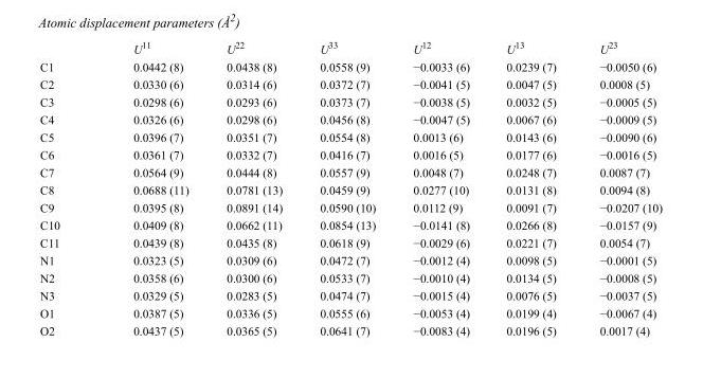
<table><thead><tr><td></td><td>U<sup>11</sup></td><td>U<sup>22</sup></td><td>U<sup>33</sup></td><td>U<sup>12</sup></td><td>U<sup>13</sup></td><td>U<sup>23</sup></td></tr></thead><tbody><tr><td>C1</td><td>0.0442 (8)</td><td>0.0438 (8)</td><td>0.0558 (9)</td><td>−0.0033 (6)</td><td>0.0239 (7)</td><td>−0.0050 (6)</td></tr><tr><td>C2</td><td>0.0330 (6)</td><td>0.0314 (6)</td><td>0.0372 (7)</td><td>−0.0041 (5)</td><td>0.0047 (5)</td><td>0.0008 (5)</td></tr><tr><td>C3</td><td>0.0298 (6)</td><td>0.0293 (6)</td><td>0.0373 (7)</td><td>−0.0038 (5)</td><td>0.0032 (5)</td><td>−0.0005 (5)</td></tr><tr><td>C4</td><td>0.0326 (6)</td><td>0.0298 (6)</td><td>0.0456 (8)</td><td>−0.0047 (5)</td><td>0.0067 (6)</td><td>−0.0009 (5)</td></tr><tr><td>C5</td><td>0.0396 (7)</td><td>0.0351 (7)</td><td>0.0554 (8)</td><td>0.0013 (6)</td><td>0.0143 (6)</td><td>−0.0090 (6)</td></tr><tr><td>C6</td><td>0.0361 (7)</td><td>0.0332 (7)</td><td>0.0416 (7)</td><td>0.0016 (5)</td><td>0.0177 (6)</td><td>−0.0016 (5)</td></tr><tr><td>C7</td><td>0.0564 (9)</td><td>0.0444 (8)</td><td>0.0557 (9)</td><td>0.0048 (7)</td><td>0.0248 (7)</td><td>0.0087 (7)</td></tr><tr><td>C8</td><td>0.0688 (11)</td><td>0.0781 (13)</td><td>0.0459 (9)</td><td>0.0277 (10)</td><td>0.0131 (8)</td><td>0.0094 (8)</td></tr><tr><td>C9</td><td>0.0395 (8)</td><td>0.0891 (14)</td><td>0.0590 (10)</td><td>0.0112 (9)</td><td>0.0091 (7)</td><td>−0.0207 (10)</td></tr><tr><td>C10</td><td>0.0409 (8)</td><td>0.0662 (11)</td><td>0.0854 (13)</td><td>−0.0141 (8)</td><td>0.0266 (8)</td><td>−0.0157 (9)</td></tr><tr><td>C11</td><td>0.0439 (8)</td><td>0.0435 (8)</td><td>0.0618 (9)</td><td>−0.0029 (6)</td><td>0.0221 (7)</td><td>0.0054 (7)</td></tr><tr><td>N1</td><td>0.0323 (5)</td><td>0.0309 (6)</td><td>0.0472 (7)</td><td>−0.0012 (4)</td><td>0.0098 (5)</td><td>−0.0001 (5)</td></tr><tr><td>N2</td><td>0.0358 (6)</td><td>0.0300 (6)</td><td>0.0533 (7)</td><td>−0.0010 (4)</td><td>0.0134 (5)</td><td>−0.0008 (5)</td></tr><tr><td>N3</td><td>0.0329 (5)</td><td>0.0283 (5)</td><td>0.0474 (7)</td><td>−0.0015 (4)</td><td>0.0076 (5)</td><td>−0.0037 (5)</td></tr><tr><td>O1</td><td>0.0387 (5)</td><td>0.0336 (5)</td><td>0.0555 (6)</td><td>−0.0053 (4)</td><td>0.0199 (4)</td><td>−0.0067 (4)</td></tr><tr><td>O2</td><td>0.0437 (5)</td><td>0.0365 (5)</td><td>0.0641 (7)</td><td>−0.0083 (4)</td><td>0.0196 (5)</td><td>0.0017 (4)</td></tr></tbody></table>